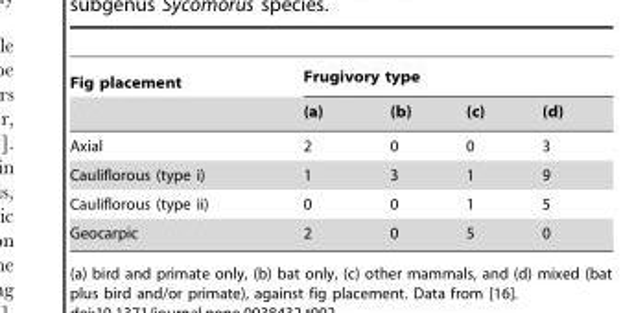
<table><thead><tr><td rowspan="2">Fig placement</td><td colspan="4">Frugivory type</td></tr><tr><td>(a)</td><td>(b)</td><td>(c)</td><td>(d)</td></tr></thead><tbody><tr><td>Axial</td><td>2</td><td>0</td><td>0</td><td>3</td></tr><tr><td>Cauliflorous (type i)</td><td>1</td><td>3</td><td>1</td><td>9</td></tr><tr><td>Cauliflorous (type ii)</td><td>0</td><td>0</td><td>1</td><td>5</td></tr><tr><td>Geocarpic</td><td>2</td><td>0</td><td>5</td><td>0</td></tr></tbody></table>